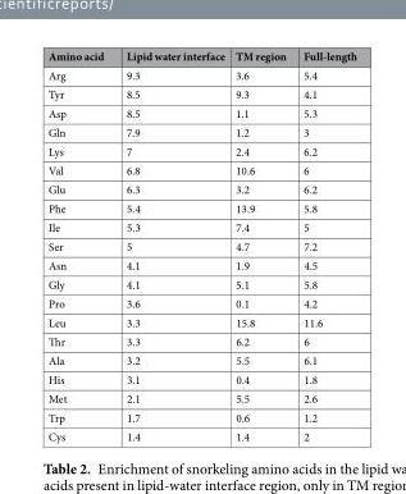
<table><thead><tr><td>Amino acid</td><td>Lipid water interface</td><td>TM region</td><td>Full-length</td></tr></thead><tbody><tr><td>Arg</td><td>9.3</td><td>3.6</td><td>5.4</td></tr><tr><td>Tyr</td><td>8.5</td><td>9.3</td><td>4.1</td></tr><tr><td>Asp</td><td>8.5</td><td>1.1</td><td>5.3</td></tr><tr><td>Gln</td><td>7.9</td><td>1.2</td><td>3</td></tr><tr><td>Lys</td><td>7</td><td>2.4</td><td>6.2</td></tr><tr><td>Val</td><td>6.8</td><td>10.6</td><td>6</td></tr><tr><td>Glu</td><td>6.3</td><td>3.2</td><td>6.2</td></tr><tr><td>Phe</td><td>5.4</td><td>13.9</td><td>5.8</td></tr><tr><td>Ile</td><td>5.3</td><td>7.4</td><td>5</td></tr><tr><td>Ser</td><td>5</td><td>4.7</td><td>7.2</td></tr><tr><td>Asn</td><td>4.1</td><td>1.9</td><td>4.5</td></tr><tr><td>Gly</td><td>4.1</td><td>5.1</td><td>5.8</td></tr><tr><td>Pro</td><td>3.6</td><td>0.1</td><td>4.2</td></tr><tr><td>Leu</td><td>3.3</td><td>15.8</td><td>11.6</td></tr><tr><td>Thr</td><td>3.3</td><td>6.2</td><td>6</td></tr><tr><td>Ala</td><td>3.2</td><td>5.5</td><td>6.1</td></tr><tr><td>His</td><td>3.1</td><td>0.4</td><td>1.8</td></tr><tr><td>Met</td><td>2.1</td><td>5.5</td><td>2.6</td></tr><tr><td>Trp</td><td>1.7</td><td>0.6</td><td>1.2</td></tr><tr><td>Cys</td><td>1.4</td><td>1.4</td><td>2</td></tr></tbody></table>